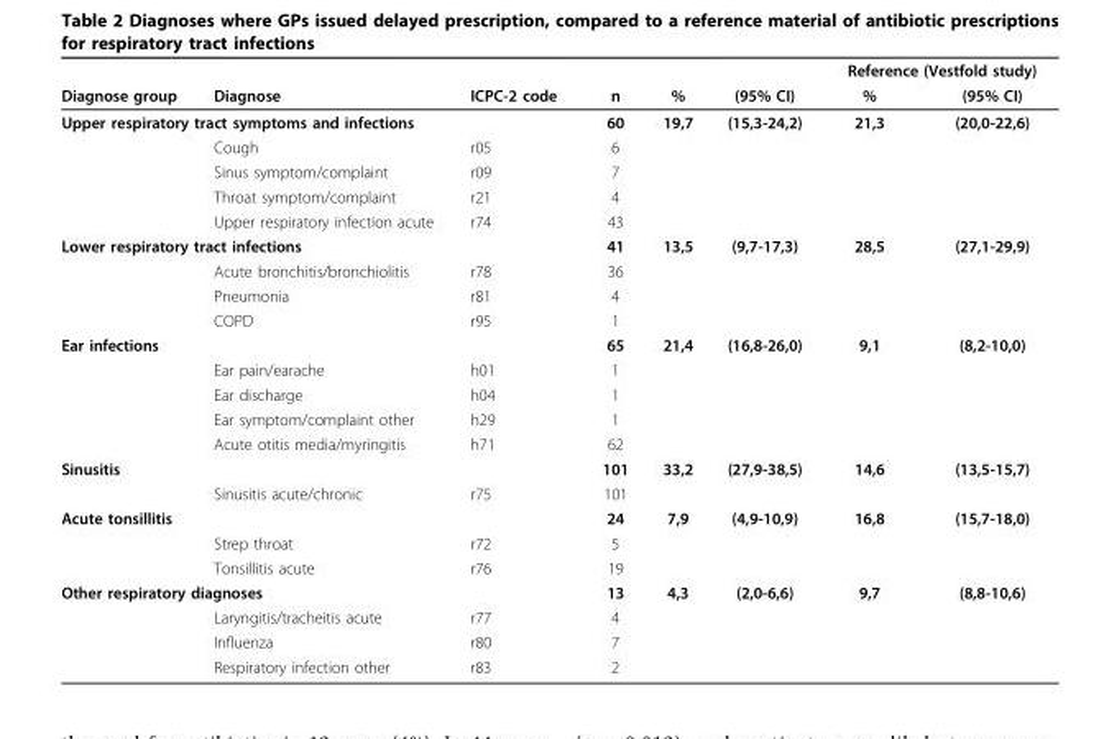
<table><thead><tr><td rowspan="2">Diagnose group</td><td rowspan="2">Diagnose</td><td rowspan="2">ICPC-2 code</td><td rowspan="2">n</td><td rowspan="2">%</td><td rowspan="2">(95% CI)</td><td colspan="2">Reference (Vestfold study)</td></tr><tr><td>%</td><td>(95% CI)</td></tr></thead><tbody><tr><td colspan="2">Upper respiratory tract symptoms and infections</td><td></td><td>60</td><td>19,7</td><td>(15,3-24,2)</td><td>21,3</td><td>(20,0-22,6)</td></tr><tr><td></td><td>Cough</td><td>r05</td><td>6</td><td></td><td></td><td></td><td></td></tr><tr><td></td><td>Sinus symptom/complaint</td><td>r09</td><td>7</td><td></td><td></td><td></td><td></td></tr><tr><td></td><td>Throat symptom/complaint</td><td>r21</td><td>4</td><td></td><td></td><td></td><td></td></tr><tr><td></td><td>Upper respiratory infection acute</td><td>r74</td><td>43</td><td></td><td></td><td></td><td></td></tr><tr><td colspan="2">Lower respiratory tract infections</td><td></td><td>41</td><td>13,5</td><td>(9,7-17,3)</td><td>28,5</td><td>(27,1-29,9)</td></tr><tr><td></td><td>Acute bronchitis/bronchiolitis</td><td>r78</td><td>36</td><td></td><td></td><td></td><td></td></tr><tr><td></td><td>Pneumonia</td><td>r81</td><td>4</td><td></td><td></td><td></td><td></td></tr><tr><td></td><td>COPD</td><td>r95</td><td>1</td><td></td><td></td><td></td><td></td></tr><tr><td colspan="2">Ear infections</td><td></td><td>65</td><td>21,4</td><td>(16,8-26,0)</td><td>9,1</td><td>(8,2-10,0)</td></tr><tr><td></td><td>Ear pain/earache</td><td>h01</td><td>1</td><td></td><td></td><td></td><td></td></tr><tr><td></td><td>Ear discharge</td><td>h04</td><td>1</td><td></td><td></td><td></td><td></td></tr><tr><td></td><td>Ear symptom/complaint other</td><td>h29</td><td>1</td><td></td><td></td><td></td><td></td></tr><tr><td></td><td>Acute otitis media/myringitis</td><td>h71</td><td>62</td><td></td><td></td><td></td><td></td></tr><tr><td colspan="2">Sinusitis</td><td></td><td>101</td><td>33,2</td><td>(27,9-38,5)</td><td>14,6</td><td>(13,5-15,7)</td></tr><tr><td></td><td>Sinusitis acute/chronic</td><td>r75</td><td>101</td><td></td><td></td><td></td><td></td></tr><tr><td colspan="2">Acute tonsillitis</td><td></td><td>24</td><td>7,9</td><td>(4,9-10,9)</td><td>16,8</td><td>(15,7-18,0)</td></tr><tr><td></td><td>Strep throat</td><td>r72</td><td>5</td><td></td><td></td><td></td><td></td></tr><tr><td></td><td>Tonsillitis acute</td><td>r76</td><td>19</td><td></td><td></td><td></td><td></td></tr><tr><td colspan="2">Other respiratory diagnoses</td><td></td><td>13</td><td>4,3</td><td>(2,0-6,6)</td><td>9,7</td><td>(8,8-10,6)</td></tr><tr><td></td><td>Laryngitis/tracheitis acute</td><td>r77</td><td>4</td><td></td><td></td><td></td><td></td></tr><tr><td></td><td>Influenza</td><td>r80</td><td>7</td><td></td><td></td><td></td><td></td></tr><tr><td></td><td>Respiratory infection other</td><td>r83</td><td>2</td><td></td><td></td><td></td><td></td></tr></tbody></table>